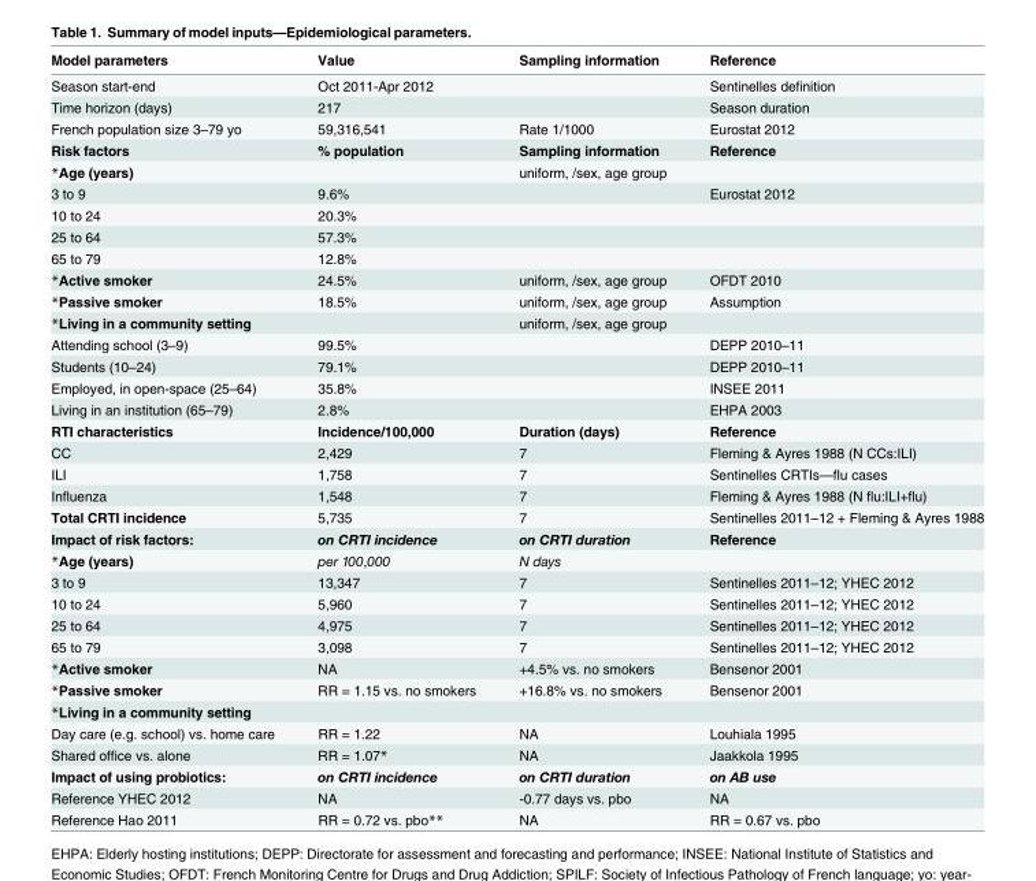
<table><thead><tr><td>Model parameters</td><td>Value</td><td>Sampling information</td><td>Reference</td></tr></thead><tbody><tr><td>Season start-end</td><td>Oct 2011-Apr 2012</td><td></td><td>Sentinelles definition</td></tr><tr><td>Time horizon (days)</td><td>217</td><td></td><td>Season duration</td></tr><tr><td>French population size 3–79 yo</td><td>59,316,541</td><td>Rate 1/1000</td><td>Eurostat 2012</td></tr><tr><td>Risk factors</td><td>% population</td><td>Sampling information</td><td>Reference</td></tr><tr><td>*Age (years)</td><td></td><td>uniform, /sex, age group</td><td></td></tr><tr><td>3 to 9</td><td>9.6%</td><td></td><td>Eurostat 2012</td></tr><tr><td>10 to 24</td><td>20.3%</td><td></td><td></td></tr><tr><td>25 to 64</td><td>57.3%</td><td></td><td></td></tr><tr><td>65 to 79</td><td>12.8%</td><td></td><td></td></tr><tr><td>*Active smoker</td><td>24.5%</td><td>uniform, /sex, age group</td><td>OFDT 2010</td></tr><tr><td>*Passive smoker</td><td>18.5%</td><td>uniform, /sex, age group</td><td>Assumption</td></tr><tr><td>*Living in a community setting</td><td></td><td>uniform, /sex, age group</td><td></td></tr><tr><td>Attending school (3–9)</td><td>99.5%</td><td></td><td>DEPP 2010–11</td></tr><tr><td>Students (10–24)</td><td>79.1%</td><td></td><td>DEPP 2010–11</td></tr><tr><td>Employed, in open-space (25–64)</td><td>35.8%</td><td></td><td>INSEE 2011</td></tr><tr><td>Living in an institution (65–79)</td><td>2.8%</td><td></td><td>EHPA 2003</td></tr><tr><td>RTI characteristics</td><td>Incidence/100,000</td><td>Duration (days)</td><td>Reference</td></tr><tr><td>CC</td><td>2,429</td><td>7</td><td>Fleming &amp; Ayres 1988 (N CCs:ILI)</td></tr><tr><td>ILI</td><td>1,758</td><td>7</td><td>Sentinelles CRTIs—flu cases</td></tr><tr><td>Influenza</td><td>1,548</td><td>7</td><td>Fleming &amp; Ayres 1988 (N flu:ILI+flu)</td></tr><tr><td>Total CRTI incidence</td><td>5,735</td><td>7</td><td>Sentinelles 2011–12 + Fleming &amp; Ayres 1988</td></tr><tr><td>Impact of risk factors:</td><td>on CRTI incidence</td><td>on CRTI duration</td><td>Reference</td></tr><tr><td>*Age (years)</td><td>per 100,000</td><td>N days</td><td></td></tr><tr><td>3 to 9</td><td>13,347</td><td>7</td><td>Sentinelles 2011–12; YHEC 2012</td></tr><tr><td>10 to 24</td><td>5,960</td><td>7</td><td>Sentinelles 2011–12; YHEC 2012</td></tr><tr><td>25 to 64</td><td>4,975</td><td>7</td><td>Sentinelles 2011–12; YHEC 2012</td></tr><tr><td>65 to 79</td><td>3,098</td><td>7</td><td>Sentinelles 2011–12; YHEC 2012</td></tr><tr><td>*Active smoker</td><td>NA</td><td>+4.5% vs. no smokers</td><td>Bensenor 2001</td></tr><tr><td>*Passive smoker</td><td>RR = 1.15 vs. no smokers</td><td>+16.8% vs. no smokers</td><td>Bensenor 2001</td></tr><tr><td colspan="4">*Living in a community setting</td></tr><tr><td>Day care (e.g. school) vs. home care</td><td>RR = 1.22</td><td>NA</td><td>Louhiala 1995</td></tr><tr><td>Shared office vs. alone</td><td>RR = 1.07*</td><td>NA</td><td>Jaakkola 1995</td></tr><tr><td>Impact of using probiotics:</td><td>on CRTI incidence</td><td>on CRTI duration</td><td>on AB use</td></tr><tr><td>Reference YHEC 2012</td><td>NA</td><td>-0.77 days vs. pbo</td><td>NA</td></tr><tr><td>Reference Hao 2011</td><td>RR = 0.72 vs. pbo**</td><td>NA</td><td>RR = 0.67 vs. pbo</td></tr></tbody></table>